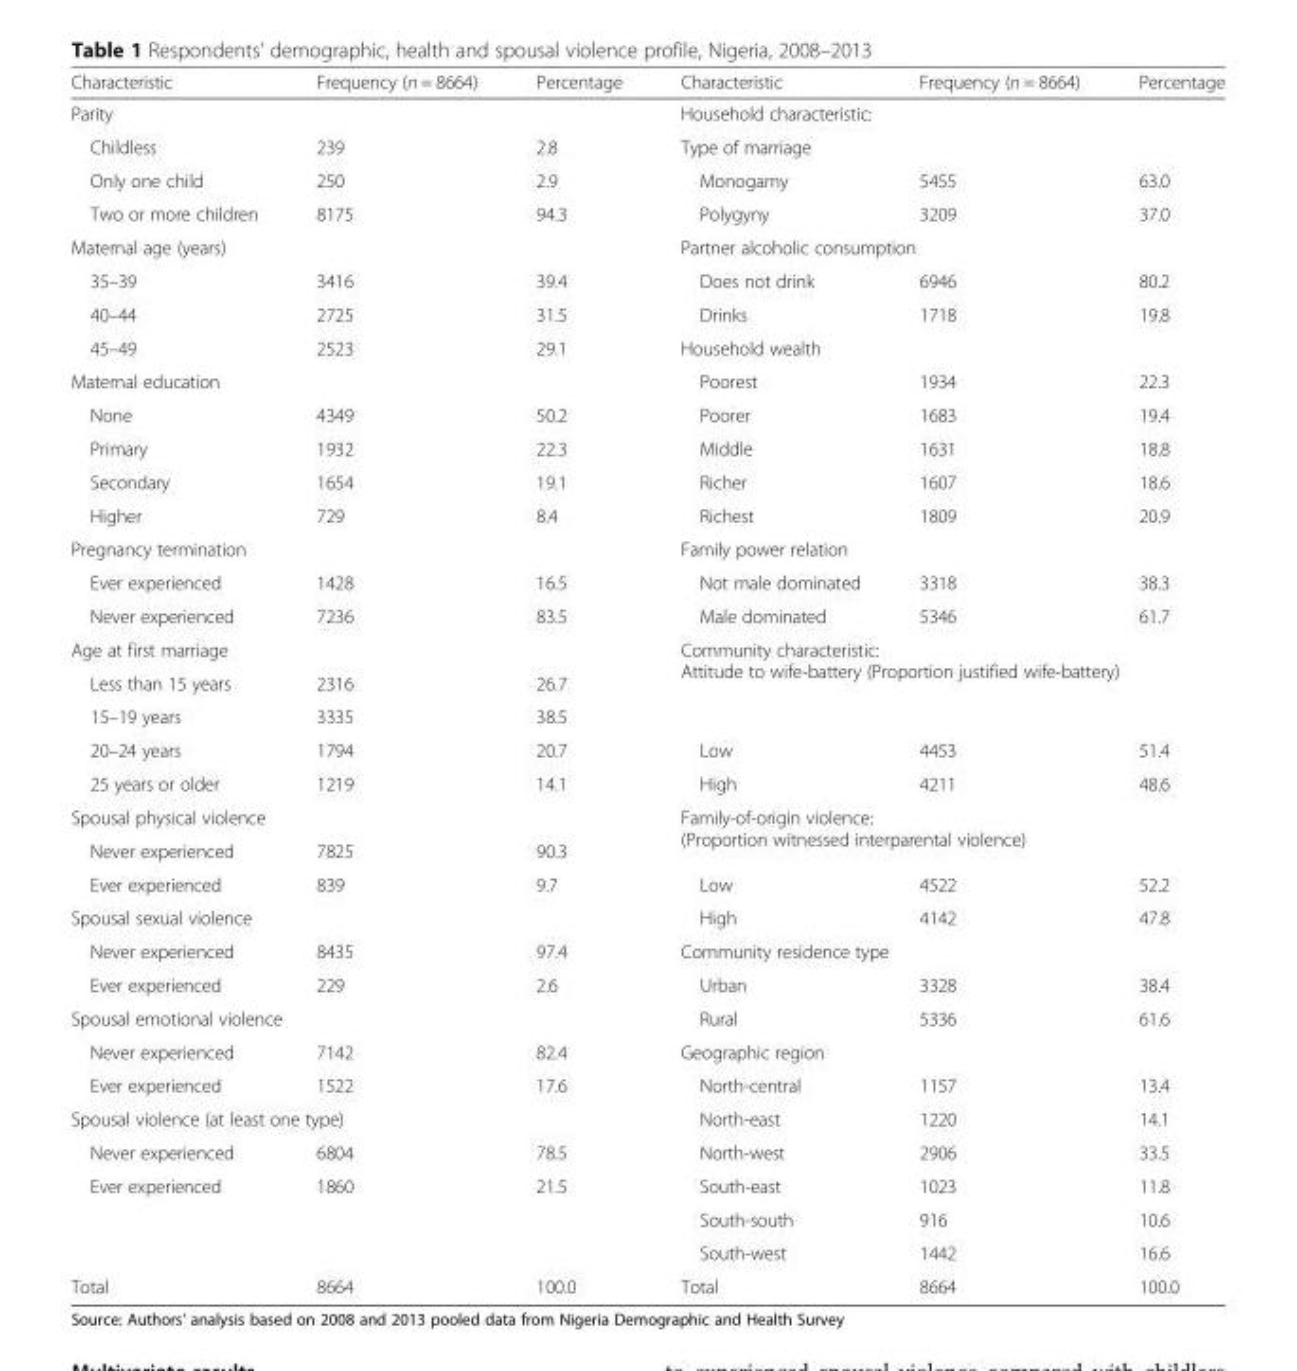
<table><thead><tr><td>Characteristic</td><td>Frequency (n = 8664)</td><td>Percentage</td><td>Characteristic</td><td>Frequency (n = 8664)</td><td>Percentage</td></tr></thead><tbody><tr><td colspan="3">Parity</td><td colspan="3">Household characteristic:</td></tr><tr><td>Childless</td><td>239</td><td>2.8</td><td colspan="3">Type of marriage</td></tr><tr><td>Only one child</td><td>250</td><td>2.9</td><td>Monogamy</td><td>5455</td><td>63.0</td></tr><tr><td>Two or more children</td><td>8175</td><td>94.3</td><td>Polygyny</td><td>3209</td><td>37.0</td></tr><tr><td colspan="3">Maternal age (years)</td><td colspan="3">Partner alcoholic consumption</td></tr><tr><td>35–39</td><td>3416</td><td>39.4</td><td>Does not drink</td><td>6946</td><td>80.2</td></tr><tr><td>40–44</td><td>2725</td><td>31.5</td><td>Drinks</td><td>1718</td><td>19.8</td></tr><tr><td>45–49</td><td>2523</td><td>29.1</td><td colspan="3">Household wealth</td></tr><tr><td colspan="3">Maternal education</td><td>Poorest</td><td>1934</td><td>22.3</td></tr><tr><td>None</td><td>4349</td><td>50.2</td><td>Poorer</td><td>1683</td><td>19.4</td></tr><tr><td>Primary</td><td>1932</td><td>22.3</td><td>Middle</td><td>1631</td><td>18.8</td></tr><tr><td>Secondary</td><td>1654</td><td>19.1</td><td>Richer</td><td>1607</td><td>18.6</td></tr><tr><td>Higher</td><td>729</td><td>8.4</td><td>Richest</td><td>1809</td><td>20.9</td></tr><tr><td colspan="3">Pregnancy termination</td><td colspan="3">Family power relation</td></tr><tr><td>Ever experienced</td><td>1428</td><td>16.5</td><td>Not male dominated</td><td>3318</td><td>38.3</td></tr><tr><td>Never experienced</td><td>7236</td><td>83.5</td><td>Male dominated</td><td>5346</td><td>61.7</td></tr><tr><td colspan="3">Age at first marriage</td><td rowspan="3" colspan="3">Community characteristic: Attitude to wife-battery (Proportion justified wife-battery)</td></tr><tr><td>Less than 15 years</td><td>2316</td><td>26.7</td></tr><tr><td>15–19 years</td><td>3335</td><td>38.5</td></tr><tr><td>20–24 years</td><td>1794</td><td>20.7</td><td>Low</td><td>4453</td><td>51.4</td></tr><tr><td>25 years or older</td><td>1219</td><td>14.1</td><td>High</td><td>4211</td><td>48.6</td></tr><tr><td colspan="3">Spousal physical violence</td><td rowspan="2" colspan="3">Family-of-origin violence: (Proportion witnessed interparental violence)</td></tr><tr><td>Never experienced</td><td>7825</td><td>90.3</td></tr><tr><td>Ever experienced</td><td>839</td><td>9.7</td><td>Low</td><td>4522</td><td>52.2</td></tr><tr><td colspan="3">Spousal sexual violence</td><td>High</td><td>4142</td><td>47.8</td></tr><tr><td>Never experienced</td><td>8435</td><td>97.4</td><td colspan="3">Community residence type</td></tr><tr><td>Ever experienced</td><td>229</td><td>2.6</td><td>Urban</td><td>3328</td><td>38.4</td></tr><tr><td colspan="3">Spousal emotional violence</td><td>Rural</td><td>5336</td><td>61.6</td></tr><tr><td>Never experienced</td><td>7142</td><td>82.4</td><td colspan="3">Geographic region</td></tr><tr><td>Ever experienced</td><td>1522</td><td>17.6</td><td>North-central</td><td>1157</td><td>13.4</td></tr><tr><td colspan="3">Spousal violence (at least one type)</td><td>North-east</td><td>1220</td><td>14.1</td></tr><tr><td>Never experienced</td><td>6804</td><td>78.5</td><td>North-west</td><td>2906</td><td>33.5</td></tr><tr><td rowspan="3">Ever experienced</td><td>1860</td><td>21.5</td><td>South-east</td><td>1023</td><td>11.8</td></tr><tr><td></td><td></td><td>South-south</td><td>916</td><td>10.6</td></tr><tr><td></td><td></td><td>South-west</td><td>1442</td><td>16.6</td></tr><tr><td>Total</td><td>8664</td><td>100.0</td><td>Total</td><td>8664</td><td>100.0</td></tr></tbody></table>